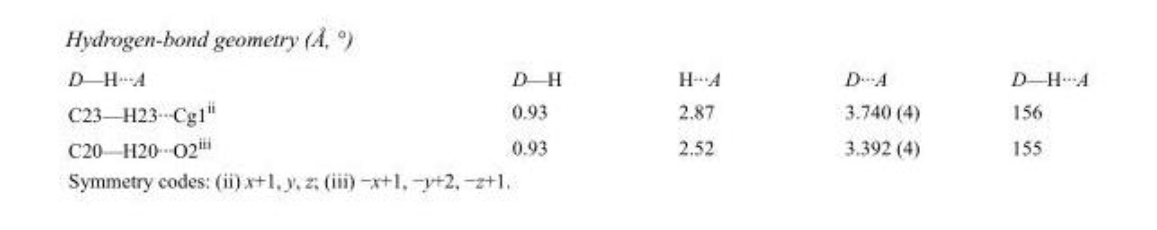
<table><tbody><tr><td>D—H···A</td><td>D—H</td><td>H···A</td><td>D···A</td><td>D—H···A</td></tr><tr><td>C23—H23···Cg1<sup>ii</sup></td><td>0.93</td><td>2.87</td><td>3.740 (4)</td><td>156</td></tr><tr><td>C20—H20···O2<sup>iii</sup></td><td>0.93</td><td>2.52</td><td>3.392 (4)</td><td>155</td></tr></tbody></table>